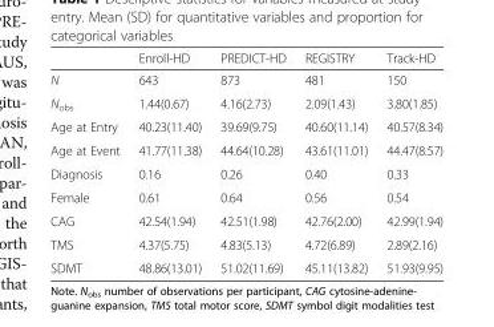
<table><thead><tr><td></td><td>Enroll-HD</td><td>PREDICT-HD</td><td>REGISTRY</td><td>Track-HD</td></tr></thead><tbody><tr><td>N</td><td>643</td><td>873</td><td>481</td><td>150</td></tr><tr><td>N<sub>obs</sub></td><td>1.44(0.67)</td><td>4.16(2.73)</td><td>2.09(1.43)</td><td>3.80(1.85)</td></tr><tr><td>Age at Entry</td><td>40.23(11.40)</td><td>39.69(9.75)</td><td>40.60(11.14)</td><td>40.57(8.34)</td></tr><tr><td>Age at Event</td><td>41.77(11.38)</td><td>44.64(10.28)</td><td>43.61(11.01)</td><td>44.47(8.57)</td></tr><tr><td>Diagnosis</td><td>0.16</td><td>0.26</td><td>0.40</td><td>0.33</td></tr><tr><td>Female</td><td>0.61</td><td>0.64</td><td>0.56</td><td>0.54</td></tr><tr><td>CAG</td><td>42.54(1.94)</td><td>42.51(1.98)</td><td>42.76(2.00)</td><td>42.99(1.94)</td></tr><tr><td>TMS</td><td>4.37(5.75)</td><td>4.83(5.13)</td><td>4.72(6.89)</td><td>2.89(2.16)</td></tr><tr><td>SDMT</td><td>48.86(13.01)</td><td>51.02(11.69)</td><td>45.11(13.82)</td><td>51.93(9.95)</td></tr></tbody></table>